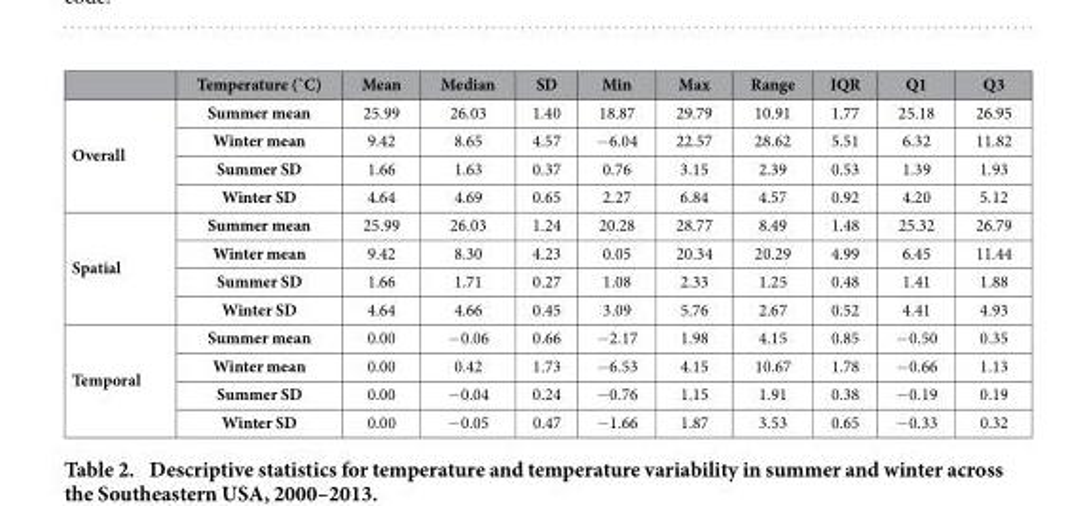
<table><thead><tr><td></td><td>Temperature (˚C)</td><td>Mean</td><td>Median</td><td>SD</td><td>Min</td><td>Max</td><td>Range</td><td>IQR</td><td>Q1</td><td>Q3</td></tr></thead><tbody><tr><td rowspan="4">Overall</td><td>Summer mean</td><td>25.99</td><td>26.03</td><td>1.40</td><td>18.87</td><td>29.79</td><td>10.91</td><td>1.77</td><td>25.18</td><td>26.95</td></tr><tr><td>Winter mean</td><td>9.42</td><td>8.65</td><td>4.57</td><td>− 6.04</td><td>22.57</td><td>28.62</td><td>5.51</td><td>6.32</td><td>11.82</td></tr><tr><td>Summer SD</td><td>1.66</td><td>1.63</td><td>0.37</td><td>0.76</td><td>3.15</td><td>2.39</td><td>0.53</td><td>1.39</td><td>1.93</td></tr><tr><td>Winter SD</td><td>4.64</td><td>4.69</td><td>0.65</td><td>2.27</td><td>6.84</td><td>4.57</td><td>0.92</td><td>4.20</td><td>5.12</td></tr><tr><td rowspan="4">Spatial</td><td>Summer mean</td><td>25.99</td><td>26.03</td><td>1.24</td><td>20.28</td><td>28.77</td><td>8.49</td><td>1.48</td><td>25.32</td><td>26.79</td></tr><tr><td>Winter mean</td><td>9.42</td><td>8.30</td><td>4.23</td><td>0.05</td><td>20.34</td><td>20.29</td><td>4.99</td><td>6.45</td><td>11.44</td></tr><tr><td>Summer SD</td><td>1.66</td><td>1.71</td><td>0.27</td><td>1.08</td><td>2.33</td><td>1.25</td><td>0.48</td><td>1.41</td><td>1.88</td></tr><tr><td>Winter SD</td><td>4.64</td><td>4.66</td><td>0.45</td><td>3.09</td><td>5.76</td><td>2.67</td><td>0.52</td><td>4.41</td><td>4.93</td></tr><tr><td rowspan="4">Temporal</td><td>Summer mean</td><td>0.00</td><td>− 0.06</td><td>0.66</td><td>− 2.17</td><td>1.98</td><td>4.15</td><td>0.85</td><td>− 0.50</td><td>0.35</td></tr><tr><td>Winter mean</td><td>0.00</td><td>0.42</td><td>1.73</td><td>− 6.53</td><td>4.15</td><td>10.67</td><td>1.78</td><td>− 0.66</td><td>1.13</td></tr><tr><td>Summer SD</td><td>0.00</td><td>− 0.04</td><td>0.24</td><td>− 0.76</td><td>1.15</td><td>1.91</td><td>0.38</td><td>− 0.19</td><td>0.19</td></tr><tr><td>Winter SD</td><td>0.00</td><td>− 0.05</td><td>0.47</td><td>− 1.66</td><td>1.87</td><td>3.53</td><td>0.65</td><td>− 0.33</td><td>0.32</td></tr></tbody></table>